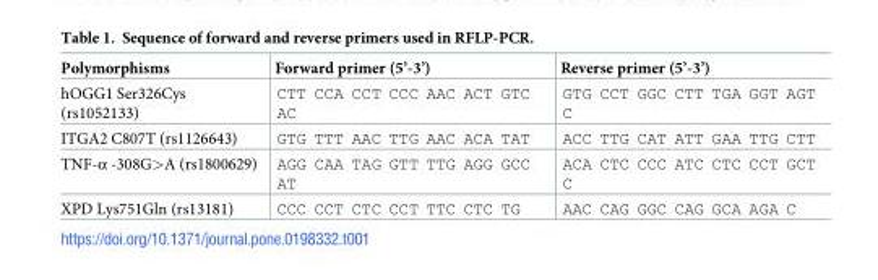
<table><thead><tr><td>Polymorphisms</td><td>Forward primer (5’-3’)</td><td>Reverse primer (5’-3’)</td></tr></thead><tbody><tr><td>hOGG1 Ser326Cys (rs1052133)</td><td>CTT CCA CCT CCC AAC ACT GTC AC</td><td>GTG CCT GGC CTT TGA GGT AGT C</td></tr><tr><td>ITGA2 C807T (rs1126643)</td><td>GTG TTT AAC TTG AAC ACA TAT</td><td>ACC TTG CAT ATT GAA TTG CTT</td></tr><tr><td>TNF-α -308G&gt;A (rs1800629)</td><td>AGG CAA TAG GTT TTG AGG GCC AT</td><td>ACA CTC CCC ATC CTC CCT GCT C</td></tr><tr><td>XPD Lys751Gln (rs13181)</td><td>CCC CCT CTC CCT TTC CTC TG</td><td>AAC CAG GGC CAG GCA AGA C</td></tr></tbody></table>